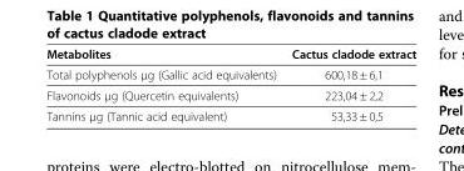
<table><thead><tr><td>Metabolites</td><td>Cactus cladode extract</td></tr></thead><tbody><tr><td>Total polyphenols μg (Gallic acid equivalents)</td><td>600,18 ± 6,1</td></tr><tr><td>Flavonoids μg (Quercetin equivalents)</td><td>223,04 ± 2,2</td></tr><tr><td>Tannins μg (Tannic acid equivalent)</td><td>53,33 ± 0,5</td></tr></tbody></table>